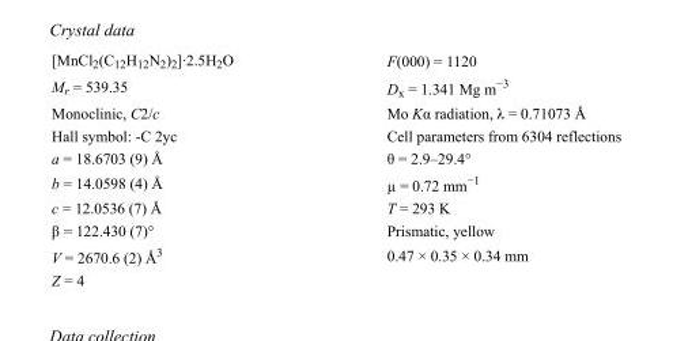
<table><tbody><tr><td>[MnCl<sub>2</sub>(C<sub>12</sub>H<sub>12</sub>N<sub>2</sub>)<sub>2</sub>]·2.5H<sub>2</sub>O</td><td>F(000) = 1120</td></tr><tr><td>M<sub>r</sub> = 539.35</td><td>D<sub>x</sub> = 1.341 Mg m<sup>−3</sup></td></tr><tr><td>Monoclinic, C2/c</td><td>Mo Kα radiation, λ = 0.71073 Å</td></tr><tr><td>Hall symbol: -C 2yc</td><td>Cell parameters from 6304 reflections</td></tr><tr><td>a = 18.6703 (9) Å</td><td>θ = 2.9–29.4°</td></tr><tr><td>b = 14.0598 (4) Å</td><td>µ = 0.72 mm<sup>−1</sup></td></tr><tr><td>c = 12.0536 (7) Å</td><td>T = 293 K</td></tr><tr><td>β = 122.430 (7)°</td><td>Prismatic, yellow</td></tr><tr><td>V = 2670.6 (2) Å<sup>3</sup></td><td>0.47 × 0.35 × 0.34 mm</td></tr><tr><td>Z = 4</td><td></td></tr></tbody></table>